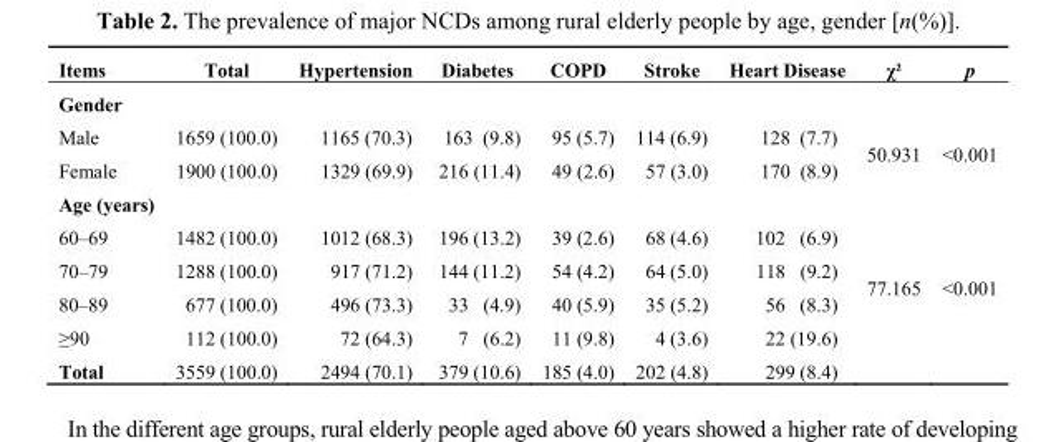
<table><thead><tr><td>Items</td><td>Total</td><td>Hypertension</td><td>Diabetes</td><td>COPD</td><td>Stroke</td><td>Heart Disease</td><td>χ²</td><td>p</td></tr></thead><tbody><tr><td colspan="9">Gender</td></tr><tr><td>Male</td><td>1659 (100.0)</td><td>1165 (70.3)</td><td>163 (9.8)</td><td>95 (5.7)</td><td>114 (6.9)</td><td>128 (7.7)</td><td rowspan="2">50.931</td><td rowspan="2">&lt;0.001</td></tr><tr><td>Female</td><td>1900 (100.0)</td><td>1329 (69.9)</td><td>216 (11.4)</td><td>49 (2.6)</td><td>57 (3.0)</td><td>170 (8.9)</td></tr><tr><td colspan="9">Age (years)</td></tr><tr><td>60–69</td><td>1482 (100.0)</td><td>1012 (68.3)</td><td>196 (13.2)</td><td>39 (2.6)</td><td>68 (4.6)</td><td>102 (6.9)</td><td rowspan="4">77.165</td><td rowspan="4">&lt;0.001</td></tr><tr><td>70–79</td><td>1288 (100.0)</td><td>917 (71.2)</td><td>144 (11.2)</td><td>54 (4.2)</td><td>64 (5.0)</td><td>118 (9.2)</td></tr><tr><td>80–89</td><td>677 (100.0)</td><td>496 (73.3)</td><td>33 (4.9)</td><td>40 (5.9)</td><td>35 (5.2)</td><td>56 (8.3)</td></tr><tr><td>≥90</td><td>112 (100.0)</td><td>72 (64.3)</td><td>7 (6.2)</td><td>11 (9.8)</td><td>4 (3.6)</td><td>22 (19.6)</td></tr><tr><td>Total</td><td>3559 (100.0)</td><td>2494 (70.1)</td><td>379 (10.6)</td><td>185 (4.0)</td><td>202 (4.8)</td><td>299 (8.4)</td><td></td><td></td></tr></tbody></table>